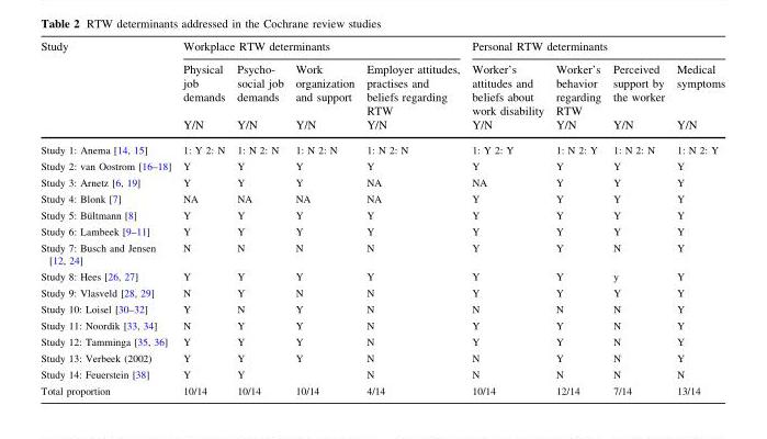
<table><thead><tr><td rowspan="3">Study</td><td colspan="4">Workplace RTW determinants</td><td colspan="4">Personal RTW determinants</td></tr><tr><td rowspan="2">Physical job demands Y/N</td><td rowspan="2">Psycho- social job demands Y/N</td><td rowspan="2">Work organization and support Y/N</td><td rowspan="2">Employer attitudes, practises and beliefs regarding RTW Y/N</td><td rowspan="2">Worker’s attitudes and beliefs about work disability Y/N</td><td rowspan="2">Worker’s behavior regarding RTW Y/N</td><td rowspan="2">Perceived support by the worker Y/N</td><td rowspan="2">Medical symptoms Y/N</td></tr><tr></tr></thead><tbody><tr><td>Study 1: Anema [14, 15]</td><td>1: Y 2: N</td><td>1: N 2: N</td><td>1: N 2: N</td><td>1: N 2: N</td><td>1: Y 2: Y</td><td>1: N 2: Y</td><td>1: N 2: N</td><td>1: N 2: Y</td></tr><tr><td>Study 2: van Oostrom [16–18]</td><td>Y</td><td>Y</td><td>Y</td><td>Y</td><td>Y</td><td>Y</td><td>Y</td><td>Y</td></tr><tr><td>Study 3: Arnetz [6, 19]</td><td>Y</td><td>Y</td><td>Y</td><td>NA</td><td>NA</td><td>Y</td><td>Y</td><td>Y</td></tr><tr><td>Study 4: Blonk [7]</td><td>NA</td><td>NA</td><td>NA</td><td>NA</td><td>Y</td><td>Y</td><td>Y</td><td>Y</td></tr><tr><td>Study 5: Bu¨ltmann [8]</td><td>Y</td><td>Y</td><td>Y</td><td>Y</td><td>Y</td><td>Y</td><td>Y</td><td>Y</td></tr><tr><td>Study 6: Lambeek [9–11]</td><td>Y</td><td>Y</td><td>Y</td><td>Y</td><td>Y</td><td>Y</td><td>Y</td><td>Y</td></tr><tr><td>Study 7: Busch and Jensen [12, 24]</td><td>N</td><td>N</td><td>N</td><td>N</td><td>Y</td><td>Y</td><td>N</td><td>Y</td></tr><tr><td>Study 8: Hees [26, 27]</td><td>Y</td><td>Y</td><td>Y</td><td>Y</td><td>Y</td><td>Y</td><td>y</td><td>Y</td></tr><tr><td>Study 9: Vlasveld [28, 29]</td><td>N</td><td>Y</td><td>N</td><td>N</td><td>Y</td><td>Y</td><td>Y</td><td>Y</td></tr><tr><td>Study 10: Loisel [30–32]</td><td>Y</td><td>N</td><td>Y</td><td>N</td><td>N</td><td>N</td><td>N</td><td>Y</td></tr><tr><td>Study 11: Noordik [33, 34]</td><td>N</td><td>Y</td><td>Y</td><td>N</td><td>Y</td><td>Y</td><td>N</td><td>Y</td></tr><tr><td>Study 12: Tamminga [35, 36]</td><td>Y</td><td>Y</td><td>Y</td><td>N</td><td>Y</td><td>Y</td><td>N</td><td>Y</td></tr><tr><td>Study 13: Verbeek (2002)</td><td>Y</td><td>Y</td><td>Y</td><td>N</td><td>N</td><td>Y</td><td>N</td><td>Y</td></tr><tr><td>Study 14: Feuerstein [38]</td><td>Y</td><td>Y</td><td></td><td>N</td><td>N</td><td>N</td><td>N</td><td>N</td></tr><tr><td>Total proportion</td><td>10/14</td><td>10/14</td><td>10/14</td><td>4/14</td><td>10/14</td><td>12/14</td><td>7/14</td><td>13/14</td></tr></tbody></table>